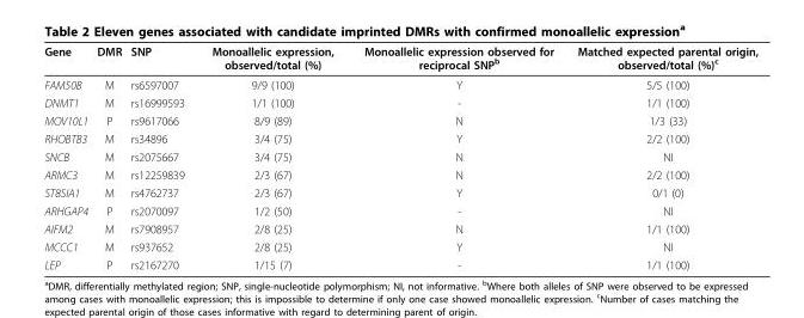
<table><thead><tr><td>Gene</td><td>DMR</td><td>SNP</td><td>Monoallelic expression, observed/total (%)</td><td>Monoallelic expression observed for reciprocal SNP<sup>b</sup></td><td>Matched expected parental origin, observed/total (%)<sup>c</sup></td></tr></thead><tbody><tr><td>FAM50B</td><td>M</td><td>rs6597007</td><td>9/9 (100)</td><td>Y</td><td>5/5 (100)</td></tr><tr><td>DNMT1</td><td>M</td><td>rs16999593</td><td>1/1 (100)</td><td>-</td><td>1/1 (100)</td></tr><tr><td>MOV10L1</td><td>P</td><td>rs9617066</td><td>8/9 (89)</td><td>N</td><td>1/3 (33)</td></tr><tr><td>RHOBTB3</td><td>M</td><td>rs34896</td><td>3/4 (75)</td><td>Y</td><td>2/2 (100)</td></tr><tr><td>SNCB</td><td>M</td><td>rs2075667</td><td>3/4 (75)</td><td>N</td><td>NI</td></tr><tr><td>ARMC3</td><td>M</td><td>rs12259839</td><td>2/3 (67)</td><td>N</td><td>2/2 (100)</td></tr><tr><td>ST8SIA1</td><td>M</td><td>rs4762737</td><td>2/3 (67)</td><td>Y</td><td>0/1 (0)</td></tr><tr><td>ARHGAP4</td><td>P</td><td>rs2070097</td><td>1/2 (50)</td><td>-</td><td>NI</td></tr><tr><td>AIFM2</td><td>M</td><td>rs7908957</td><td>2/8 (25)</td><td>N</td><td>1/1 (100)</td></tr><tr><td>MCCC1</td><td>M</td><td>rs937652</td><td>2/8 (25)</td><td>Y</td><td>NI</td></tr><tr><td>LEP</td><td>P</td><td>rs2167270</td><td>1/15 (7)</td><td>-</td><td>1/1 (100)</td></tr></tbody></table>